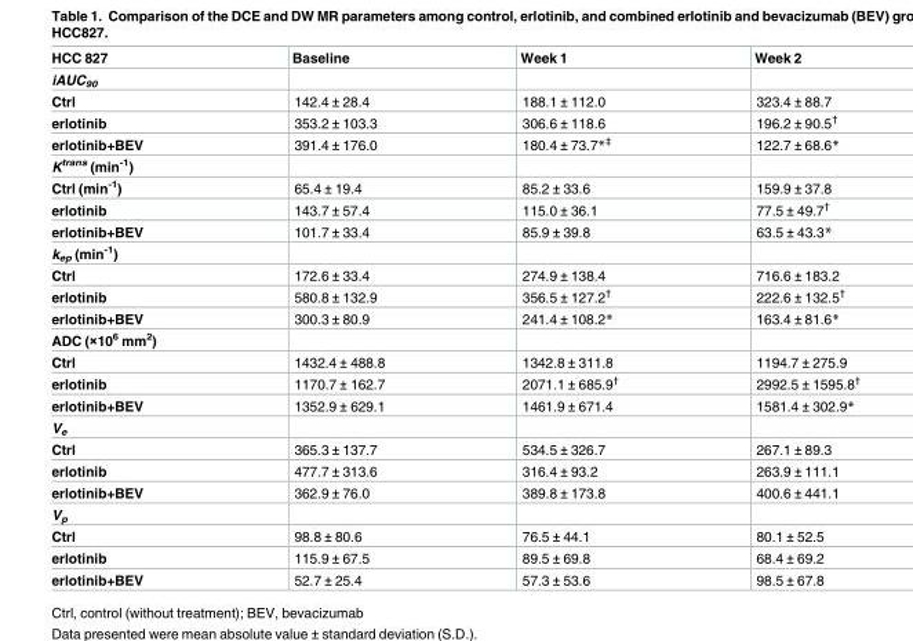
<table><thead><tr><td>HCC 827</td><td>Baseline</td><td>Week 1</td><td>Week 2</td></tr></thead><tbody><tr><td colspan="4">iAUC<sub>90</sub></td></tr><tr><td>Ctrl</td><td>142.4 ± 28.4</td><td>188.1 ± 112.0</td><td>323.4 ± 88.7</td></tr><tr><td>erlotinib</td><td>353.2 ± 103.3</td><td>306.6 ± 118.6</td><td>196.2 ± 90.5<sup>†</sup></td></tr><tr><td>erlotinib+BEV</td><td>391.4 ± 176.0</td><td>180.4 ± 73.7*<sup>‡</sup></td><td>122.7 ± 68.6*</td></tr><tr><td colspan="4">K<sup>trans</sup> (min<sup>-1</sup>)</td></tr><tr><td>Ctrl (min<sup>-1</sup>)</td><td>65.4 ± 19.4</td><td>85.2 ± 33.6</td><td>159.9 ± 37.8</td></tr><tr><td>erlotinib</td><td>143.7 ± 57.4</td><td>115.0 ± 36.1</td><td>77.5 ± 49.7<sup>†</sup></td></tr><tr><td>erlotinib+BEV</td><td>101.7 ± 33.4</td><td>85.9 ± 39.8</td><td>63.5 ± 43.3*</td></tr><tr><td colspan="4">k<sub>ep</sub> (min<sup>-1</sup>)</td></tr><tr><td>Ctrl</td><td>172.6 ± 33.4</td><td>274.9 ± 138.4</td><td>716.6 ± 183.2</td></tr><tr><td>erlotinib</td><td>580.8 ± 132.9</td><td>356.5 ± 127.2<sup>†</sup></td><td>222.6 ± 132.5<sup>†</sup></td></tr><tr><td>erlotinib+BEV</td><td>300.3 ± 80.9</td><td>241.4 ± 108.2*</td><td>163.4 ± 81.6*</td></tr><tr><td colspan="4">ADC (×10<sup>6</sup> mm<sup>2</sup>)</td></tr><tr><td>Ctrl</td><td>1432.4 ± 488.8</td><td>1342.8 ± 311.8</td><td>1194.7 ± 275.9</td></tr><tr><td>erlotinib</td><td>1170.7 ± 162.7</td><td>2071.1 ± 685.9<sup>†</sup></td><td>2992.5 ± 1595.8<sup>†</sup></td></tr><tr><td>erlotinib+BEV</td><td>1352.9 ± 629.1</td><td>1461.9 ± 671.4</td><td>1581.4 ± 302.9*</td></tr><tr><td colspan="4">V<sub>e</sub></td></tr><tr><td>Ctrl</td><td>365.3 ± 137.7</td><td>534.5 ± 326.7</td><td>267.1 ± 89.3</td></tr><tr><td>erlotinib</td><td>477.7 ± 313.6</td><td>316.4 ± 93.2</td><td>263.9 ± 111.1</td></tr><tr><td>erlotinib+BEV</td><td>362.9 ± 76.0</td><td>389.8 ± 173.8</td><td>400.6 ± 441.1</td></tr><tr><td colspan="4">V<sub>p</sub></td></tr><tr><td>Ctrl</td><td>98.8 ± 80.6</td><td>76.5 ± 44.1</td><td>80.1 ± 52.5</td></tr><tr><td>erlotinib</td><td>115.9 ± 67.5</td><td>89.5 ± 69.8</td><td>68.4 ± 69.2</td></tr><tr><td>erlotinib+BEV</td><td>52.7 ± 25.4</td><td>57.3 ± 53.6</td><td>98.5 ± 67.8</td></tr></tbody></table>